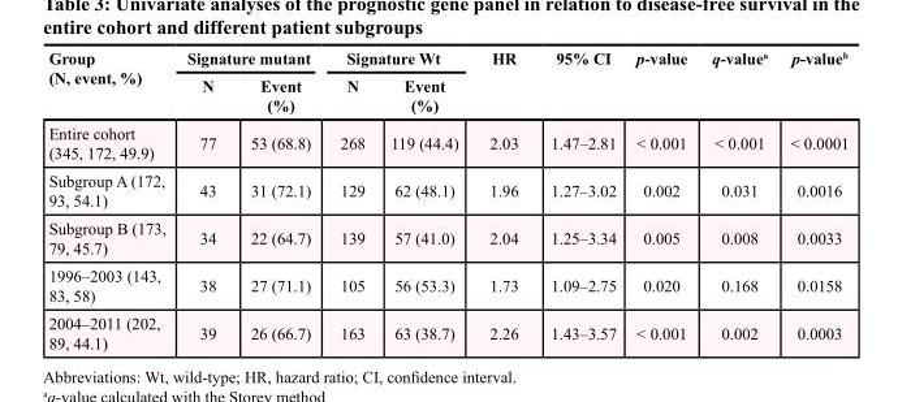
<table><thead><tr><td rowspan="2">Group (N, event, %)</td><td colspan="2">Signature mutant</td><td colspan="2">Signature Wt</td><td rowspan="2">HR</td><td rowspan="2">95% CI</td><td rowspan="2">p-value</td><td rowspan="2">q-value<sup>a</sup></td><td rowspan="2">p-value<sup>b</sup></td></tr><tr><td>N</td><td>Event (%)</td><td>N</td><td>Event (%)</td></tr></thead><tbody><tr><td>Entire cohort (345, 172, 49.9)</td><td>77</td><td>53 (68.8)</td><td>268</td><td>119 (44.4)</td><td>2.03</td><td>1.47–2.81</td><td>&lt; 0.001</td><td>&lt; 0.001</td><td>&lt; 0.0001</td></tr><tr><td>Subgroup A (172, 93, 54.1)</td><td>43</td><td>31 (72.1)</td><td>129</td><td>62 (48.1)</td><td>1.96</td><td>1.27–3.02</td><td>0.002</td><td>0.031</td><td>0.0016</td></tr><tr><td>Subgroup B (173, 79, 45.7)</td><td>34</td><td>22 (64.7)</td><td>139</td><td>57 (41.0)</td><td>2.04</td><td>1.25–3.34</td><td>0.005</td><td>0.008</td><td>0.0033</td></tr><tr><td>1996–2003 (143, 83, 58)</td><td>38</td><td>27 (71.1)</td><td>105</td><td>56 (53.3)</td><td>1.73</td><td>1.09–2.75</td><td>0.020</td><td>0.168</td><td>0.0158</td></tr><tr><td>2004–2011 (202, 89, 44.1)</td><td>39</td><td>26 (66.7)</td><td>163</td><td>63 (38.7)</td><td>2.26</td><td>1.43–3.57</td><td>&lt; 0.001</td><td>0.002</td><td>0.0003</td></tr></tbody></table>